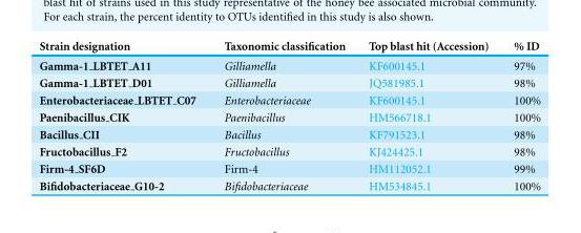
<table><thead><tr><td>Strain designation</td><td>Taxonomic classification</td><td>Top blast hit (Accession)</td><td>% ID</td></tr></thead><tbody><tr><td>Gamma-1 <sub>LBTET</sub> A11</td><td>Gilliamella</td><td>KF600145.1</td><td>97%</td></tr><tr><td>Gamma-1 <sub>LBTET</sub> D01</td><td>Gilliamella</td><td>JQ581985.1</td><td>98%</td></tr><tr><td>Enterobacteriaceae <sub>LBTET</sub> C07</td><td>Enterobacteriaceae</td><td>KF600145.1</td><td>100%</td></tr><tr><td>Paenibacillus CIK</td><td>Paenibacillus</td><td>HM566718.1</td><td>100%</td></tr><tr><td>Bacillus CII</td><td>Bacillus</td><td>KF791523.1</td><td>98%</td></tr><tr><td>Fructobacillus F2</td><td>Fructobacillus</td><td>KJ424425.1</td><td>98%</td></tr><tr><td>Firm-4 SF6D</td><td>Firm-4</td><td>HM112052.1</td><td>99%</td></tr><tr><td>Bifidobacteriaceae G10-2</td><td>Bifidobacteriaceae</td><td>HM534845.1</td><td>100%</td></tr></tbody></table>